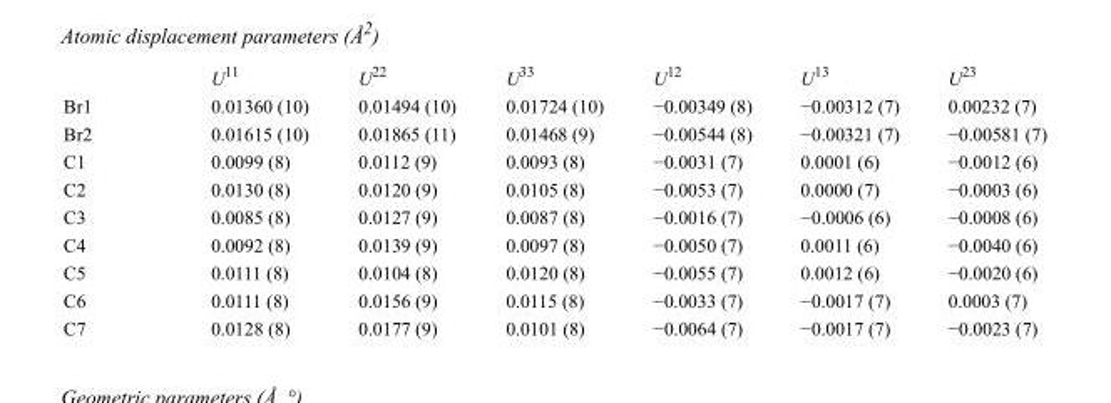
<table><thead><tr><td></td><td>U<sup>11</sup></td><td>U<sup>22</sup></td><td>U<sup>33</sup></td><td>U<sup>12</sup></td><td>U<sup>13</sup></td><td>U<sup>23</sup></td></tr></thead><tbody><tr><td>Br1</td><td>0.01360 (10)</td><td>0.01494 (10)</td><td>0.01724 (10)</td><td>−0.00349 (8)</td><td>−0.00312 (7)</td><td>0.00232 (7)</td></tr><tr><td>Br2</td><td>0.01615 (10)</td><td>0.01865 (11)</td><td>0.01468 (9)</td><td>−0.00544 (8)</td><td>−0.00321 (7)</td><td>−0.00581 (7)</td></tr><tr><td>C1</td><td>0.0099 (8)</td><td>0.0112 (9)</td><td>0.0093 (8)</td><td>−0.0031 (7)</td><td>0.0001 (6)</td><td>−0.0012 (6)</td></tr><tr><td>C2</td><td>0.0130 (8)</td><td>0.0120 (9)</td><td>0.0105 (8)</td><td>−0.0053 (7)</td><td>0.0000 (7)</td><td>−0.0003 (6)</td></tr><tr><td>C3</td><td>0.0085 (8)</td><td>0.0127 (9)</td><td>0.0087 (8)</td><td>−0.0016 (7)</td><td>−0.0006 (6)</td><td>−0.0008 (6)</td></tr><tr><td>C4</td><td>0.0092 (8)</td><td>0.0139 (9)</td><td>0.0097 (8)</td><td>−0.0050 (7)</td><td>0.0011 (6)</td><td>−0.0040 (6)</td></tr><tr><td>C5</td><td>0.0111 (8)</td><td>0.0104 (8)</td><td>0.0120 (8)</td><td>−0.0055 (7)</td><td>0.0012 (6)</td><td>−0.0020 (6)</td></tr><tr><td>C6</td><td>0.0111 (8)</td><td>0.0156 (9)</td><td>0.0115 (8)</td><td>−0.0033 (7)</td><td>−0.0017 (7)</td><td>0.0003 (7)</td></tr><tr><td>C7</td><td>0.0128 (8)</td><td>0.0177 (9)</td><td>0.0101 (8)</td><td>−0.0064 (7)</td><td>−0.0017 (7)</td><td>−0.0023 (7)</td></tr></tbody></table>